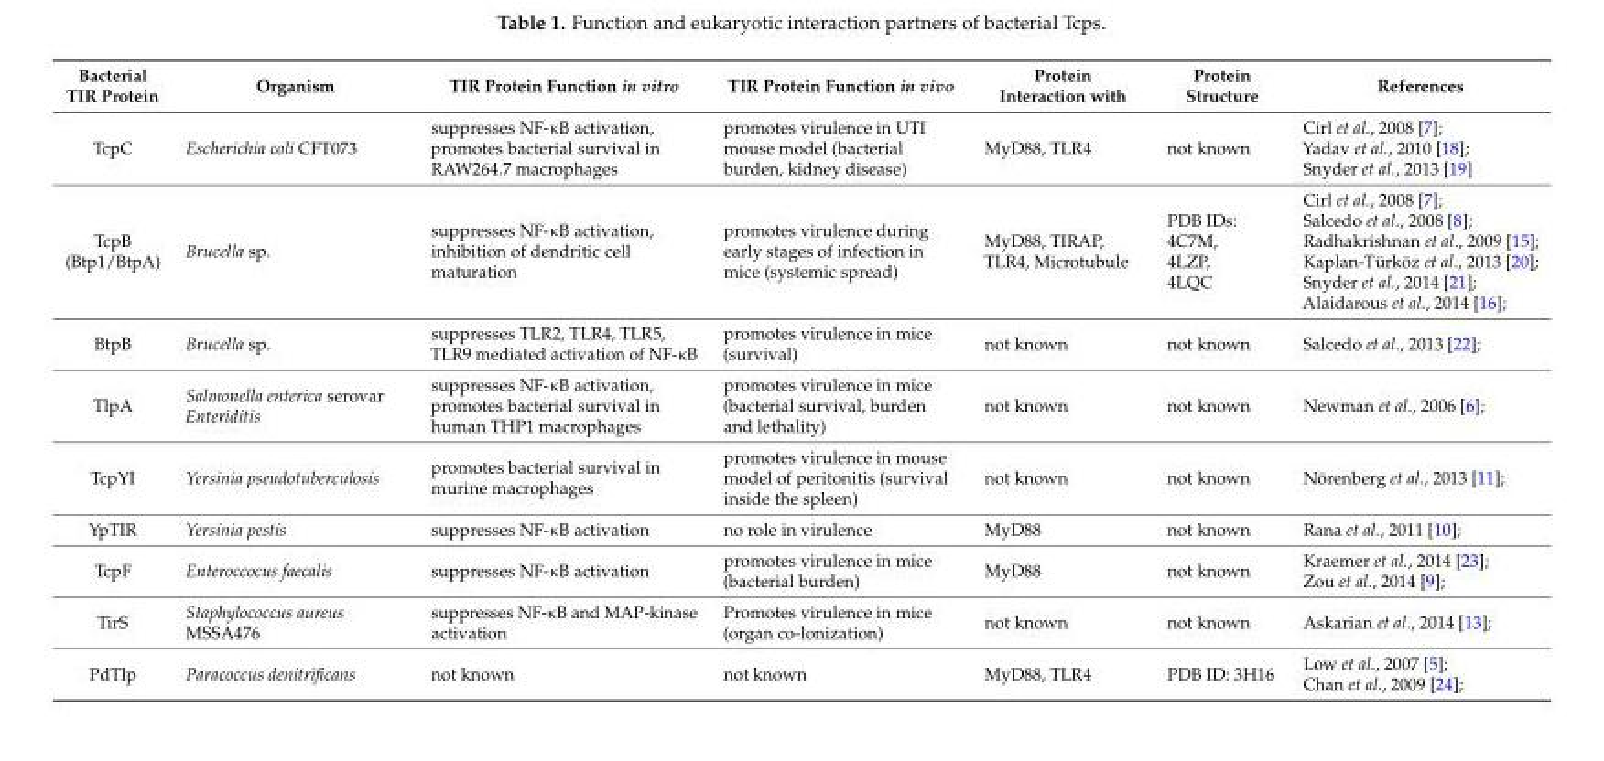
<table><thead><tr><td>Bacterial TIR Protein</td><td>Organism</td><td>TIR Protein Function in vitro</td><td>TIR Protein Function in vivo</td><td>Protein Interaction with</td><td>Protein Structure</td><td>References</td></tr></thead><tbody><tr><td>TcpC</td><td>Escherichia coli CFT073</td><td>suppresses NF-κB activation, promotes bacterial survival in RAW264.7 macrophages</td><td>promotes virulence in UTI mouse model (bacterial burden, kidney disease)</td><td>MyD88, TLR4</td><td>not known</td><td>Cirl et al., 2008 [7]; Yadav et al., 2010 [18]; Snyder et al., 2013 [19]</td></tr><tr><td>TcpB (Btp1/BtpA)</td><td>Brucella sp.</td><td>suppresses NF-κB activation, inhibition of dendritic cell maturation</td><td>promotes virulence during early stages of infection in mice (systemic spread)</td><td>MyD88, TIRAP, TLR4, Microtubule</td><td>PDB IDs: 4C7M, 4LZP, 4LQC</td><td>Cirl et al., 2008 [7]; Salcedo et al., 2008 [8]; Radhakrishnan et al., 2009 [15]; Kaplan-Türköz et al., 2013 [20]; Snyder et al., 2014 [21]; Alaidarous et al., 2014 [16];</td></tr><tr><td>BtpB</td><td>Brucella sp.</td><td>suppresses TLR2, TLR4, TLR5, TLR9 mediated activation of NF-κB</td><td>promotes virulence in mice (survival)</td><td>not known</td><td>not known</td><td>Salcedo et al., 2013 [22];</td></tr><tr><td>TlpA</td><td>Salmonella enterica serovar Enteriditis</td><td>suppresses NF-κB activation, promotes bacterial survival in human THP1 macrophages</td><td>promotes virulence in mice (bacterial survival, burden and lethality)</td><td>not known</td><td>not known</td><td>Newman et al., 2006 [6];</td></tr><tr><td>TcpYI</td><td>Yersinia pseudotuberculosis</td><td>promotes bacterial survival in murine macrophages</td><td>promotes virulence in mouse model of peritonitis (survival inside the spleen)</td><td>not known</td><td>not known</td><td>Nörenberg et al., 2013 [11];</td></tr><tr><td>YpTIR</td><td>Yersinia pestis</td><td>suppresses NF-κB activation</td><td>no role in virulence</td><td>MyD88</td><td>not known</td><td>Rana et al., 2011 [10];</td></tr><tr><td>TcpF</td><td>Enteroccocus faecalis</td><td>suppresses NF-κB activation</td><td>promotes virulence in mice (bacterial burden)</td><td>MyD88</td><td>not known</td><td>Kraemer et al., 2014 [23]; Zou et al., 2014 [9];</td></tr><tr><td>TirS</td><td>Staphylococcus aureus MSSA476</td><td>suppresses NF-κB and MAP-kinase activation</td><td>Promotes virulence in mice (organ co-lonization)</td><td>not known</td><td>not known</td><td>Askarian et al., 2014 [13];</td></tr><tr><td>PdTlp</td><td>Paracoccus denitrificans</td><td>not known</td><td>not known</td><td>MyD88, TLR4</td><td>PDB ID: 3H16</td><td>Low et al., 2007 [5]; Chan et al., 2009 [24];</td></tr></tbody></table>